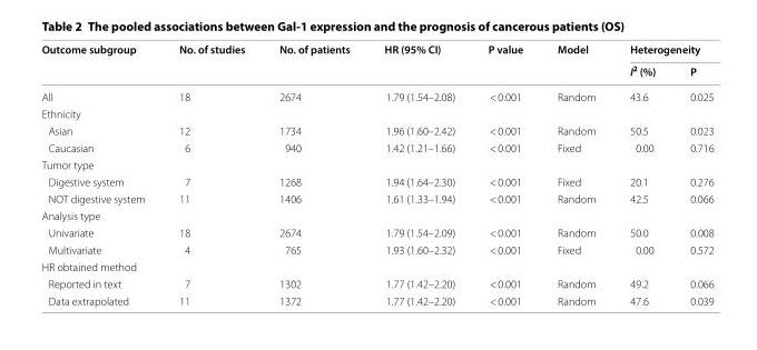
<table><thead><tr><td rowspan="2">Outcome subgroup</td><td rowspan="2">No. of studies</td><td rowspan="2">No. of patients</td><td rowspan="2">HR (95% CI)</td><td rowspan="2">P value</td><td rowspan="2">Model</td><td colspan="2">Heterogeneity</td></tr><tr><td>I<sup>2</sup> (%)</td><td>P</td></tr></thead><tbody><tr><td>All</td><td>18</td><td>2674</td><td>1.79 (1.54–2.08)</td><td>&lt; 0.001</td><td>Random</td><td>43.6</td><td>0.025</td></tr><tr><td colspan="8">Ethnicity</td></tr><tr><td>Asian</td><td>12</td><td>1734</td><td>1.96 (1.60–2.42)</td><td>&lt; 0.001</td><td>Random</td><td>50.5</td><td>0.023</td></tr><tr><td>Caucasian</td><td>6</td><td>940</td><td>1.42 (1.21–1.66)</td><td>&lt; 0.001</td><td>Fixed</td><td>0.00</td><td>0.716</td></tr><tr><td colspan="8">Tumor type</td></tr><tr><td>Digestive system</td><td>7</td><td>1268</td><td>1.94 (1.64–2.30)</td><td>&lt; 0.001</td><td>Fixed</td><td>20.1</td><td>0.276</td></tr><tr><td>NOT digestive system</td><td>11</td><td>1406</td><td>1.61 (1.33–1.94)</td><td>&lt; 0.001</td><td>Random</td><td>42.5</td><td>0.066</td></tr><tr><td colspan="8">Analysis type</td></tr><tr><td>Univariate</td><td>18</td><td>2674</td><td>1.79 (1.54–2.09)</td><td>&lt; 0.001</td><td>Random</td><td>50.0</td><td>0.008</td></tr><tr><td>Multivariate</td><td>4</td><td>765</td><td>1.93 (1.60–2.32)</td><td>&lt; 0.001</td><td>Fixed</td><td>0.00</td><td>0.572</td></tr><tr><td colspan="8">HR obtained method</td></tr><tr><td>Reported in text</td><td>7</td><td>1302</td><td>1.77 (1.42–2.20)</td><td>&lt; 0.001</td><td>Random</td><td>49.2</td><td>0.066</td></tr><tr><td>Data extrapolated</td><td>11</td><td>1372</td><td>1.77 (1.42–2.20)</td><td>&lt; 0.001</td><td>Random</td><td>47.6</td><td>0.039</td></tr></tbody></table>